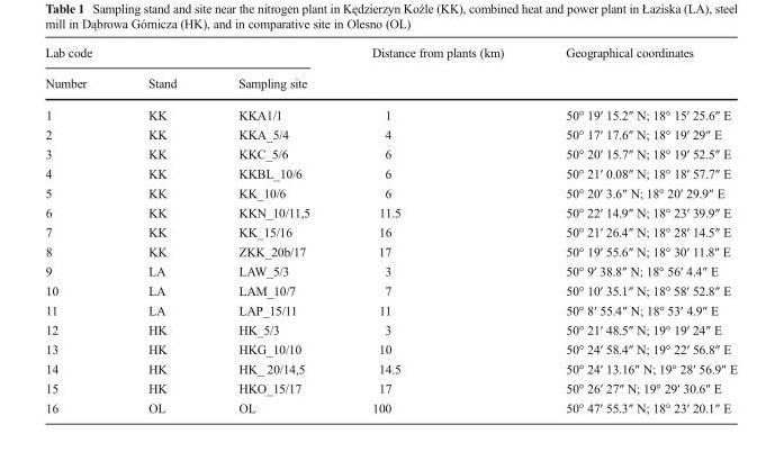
<table><thead><tr><td colspan="3">Lab code</td><td rowspan="2">Distance from plants (km)</td><td rowspan="2">Geographical coordinates</td></tr><tr><td>Number</td><td>Stand</td><td>Sampling site</td></tr></thead><tbody><tr><td>1</td><td>KK</td><td>KKA1/1</td><td>1</td><td>50° 19′ 15.2″ N; 18° 15′ 25.6″ E</td></tr><tr><td>2</td><td>KK</td><td>KKA_5/4</td><td>4</td><td>50° 17′ 17.6″ N; 18° 19′ 29″ E</td></tr><tr><td>3</td><td>KK</td><td>KKC_5/6</td><td>6</td><td>50° 20′ 15.7″ N; 18° 19′ 52.5″ E</td></tr><tr><td>4</td><td>KK</td><td>KKBL_10/6</td><td>6</td><td>50° 21′ 0.08″ N; 18° 18′ 57.7″ E</td></tr><tr><td>5</td><td>KK</td><td>KK_10/6</td><td>6</td><td>50° 20′ 3.6″ N; 18° 20′ 29.9″ E</td></tr><tr><td>6</td><td>KK</td><td>KKN_10/11,5</td><td>11.5</td><td>50° 22′ 14.9″ N; 18° 23′ 39.9″ E</td></tr><tr><td>7</td><td>KK</td><td>KK_15/16</td><td>16</td><td>50° 21′ 26.4″ N; 18° 28′ 14.5″ E</td></tr><tr><td>8</td><td>KK</td><td>ZKK_20b/17</td><td>17</td><td>50° 19′ 55.6″ N; 18° 30′ 11.8″ E</td></tr><tr><td>9</td><td>LA</td><td>LAW_5/3</td><td>3</td><td>50° 9′ 38.8″ N; 18° 56′ 4.4″ E</td></tr><tr><td>10</td><td>LA</td><td>LAM_10/7</td><td>7</td><td>50° 10′ 35.1″ N; 18° 58′ 52.8″ E</td></tr><tr><td>11</td><td>LA</td><td>LAP_15/11</td><td>11</td><td>50° 8′ 55.4″ N; 18° 53′ 4.9″ E</td></tr><tr><td>12</td><td>HK</td><td>HK_5/3</td><td>3</td><td>50° 21′ 48.5″ N; 19° 19′ 24″ E</td></tr><tr><td>13</td><td>HK</td><td>HKG_10/10</td><td>10</td><td>50° 24′ 58.4″ N; 19° 22′ 56.8″ E</td></tr><tr><td>14</td><td>HK</td><td>HK_ 20/14,5</td><td>14.5</td><td>50° 24′ 13.16″ N; 19° 28′ 56.9″ E</td></tr><tr><td>15</td><td>HK</td><td>HKO_15/17</td><td>17</td><td>50° 26′ 27″ N; 19° 29′ 30.6″ E</td></tr><tr><td>16</td><td>OL</td><td>OL</td><td>100</td><td>50° 47′ 55.3″ N; 18° 23′ 20.1″ E</td></tr></tbody></table>